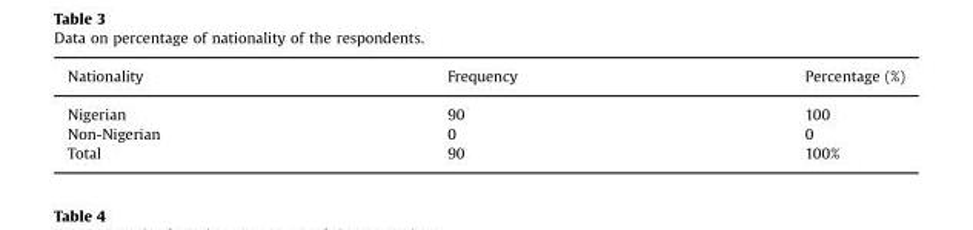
<table><thead><tr><td>Nationality</td><td>Frequency</td><td>Percentage (%)</td></tr></thead><tbody><tr><td>Nigerian</td><td>90</td><td>100</td></tr><tr><td>Non-Nigerian</td><td>0</td><td>0</td></tr><tr><td>Total</td><td>90</td><td>100%</td></tr></tbody></table>